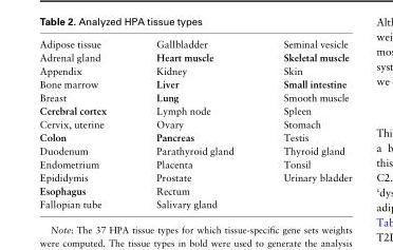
<table><tbody><tr><td>Adipose tissue</td><td>Gallbladder</td><td>Seminal vesicle</td></tr><tr><td>Adrenal gland</td><td>Heart muscle</td><td>Skeletal muscle</td></tr><tr><td>Appendix</td><td>Kidney</td><td>Skin</td></tr><tr><td>Bone marrow</td><td>Liver</td><td>Small intestine</td></tr><tr><td>Breast</td><td>Lung</td><td>Smooth muscle</td></tr><tr><td>Cerebral cortex</td><td>Lymph node</td><td>Spleen</td></tr><tr><td>Cervix, uterine</td><td>Ovary</td><td>Stomach</td></tr><tr><td>Colon</td><td>Pancreas</td><td>Testis</td></tr><tr><td>Duodenum</td><td>Parathyroid gland</td><td>Thyroid gland</td></tr><tr><td>Endometrium</td><td>Placenta</td><td>Tonsil</td></tr><tr><td>Epididymis</td><td>Prostate</td><td>Urinary bladder</td></tr><tr><td>Esophagus</td><td>Rectum</td><td></td></tr><tr><td>Fallopian tube</td><td>Salivary gland</td><td></td></tr></tbody></table>